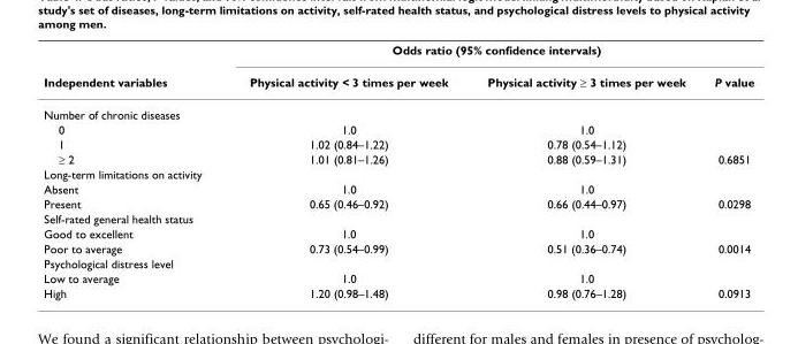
<table><thead><tr><td rowspan="2">Independent variables</td><td colspan="3">Odds ratio (95% confidence intervals)</td></tr><tr><td>Physical activity &lt; 3 times per week</td><td>Physical activity ≥ 3 times per week</td><td>P value</td></tr></thead><tbody><tr><td colspan="4">Number of chronic diseases</td></tr><tr><td>0</td><td>1.0</td><td>1.0</td><td></td></tr><tr><td>1</td><td>1.02 (0.84–1.22)</td><td>0.78 (0.54–1.12)</td><td></td></tr><tr><td>≥ 2</td><td>1.01 (0.81–1.26)</td><td>0.88 (0.59–1.31)</td><td>0.6851</td></tr><tr><td colspan="4">Long-term limitations on activity</td></tr><tr><td>Absent</td><td>1.0</td><td>1.0</td><td></td></tr><tr><td>Present</td><td>0.65 (0.46–0.92)</td><td>0.66 (0.44–0.97)</td><td>0.0298</td></tr><tr><td colspan="4">Self-rated general health status</td></tr><tr><td>Good to excellent</td><td>1.0</td><td>1.0</td><td></td></tr><tr><td>Poor to average</td><td>0.73 (0.54–0.99)</td><td>0.51 (0.36–0.74)</td><td>0.0014</td></tr><tr><td colspan="4">Psychological distress level</td></tr><tr><td>Low to average</td><td>1.0</td><td>1.0</td><td></td></tr><tr><td>High</td><td>1.20 (0.98–1.48)</td><td>0.98 (0.76–1.28)</td><td>0.0913</td></tr></tbody></table>